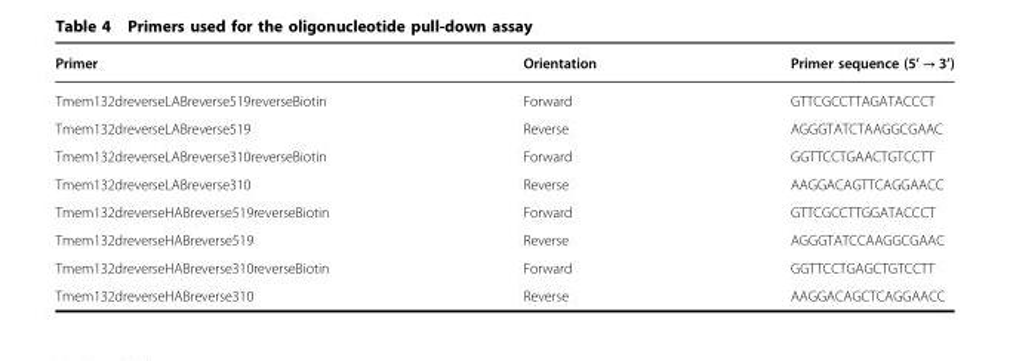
<table><thead><tr><td>Primer</td><td>Orientation</td><td>Primer sequence (5’ → 3’)</td></tr></thead><tbody><tr><td>Tmem132dreverseLABreverse519reverseBiotin</td><td>Forward</td><td>GTTCGCCTTAGATACCCT</td></tr><tr><td>Tmem132dreverseLABreverse519</td><td>Reverse</td><td>AGGGTATCTAAGGCGAAC</td></tr><tr><td>Tmem132dreverseLABreverse310reverseBiotin</td><td>Forward</td><td>GGTTCCTGAACTGTCCTT</td></tr><tr><td>Tmem132dreverseLABreverse310</td><td>Reverse</td><td>AAGGACAGTTCAGGAACC</td></tr><tr><td>Tmem132dreverseHABreverse519reverseBiotin</td><td>Forward</td><td>GTTCGCCTTGGATACCCT</td></tr><tr><td>Tmem132dreverseHABreverse519</td><td>Reverse</td><td>AGGGTATCCAAGGCGAAC</td></tr><tr><td>Tmem132dreverseHABreverse310reverseBiotin</td><td>Forward</td><td>GGTTCCTGAGCTGTCCTT</td></tr><tr><td>Tmem132dreverseHABreverse310</td><td>Reverse</td><td>AAGGACAGCTCAGGAACC</td></tr></tbody></table>